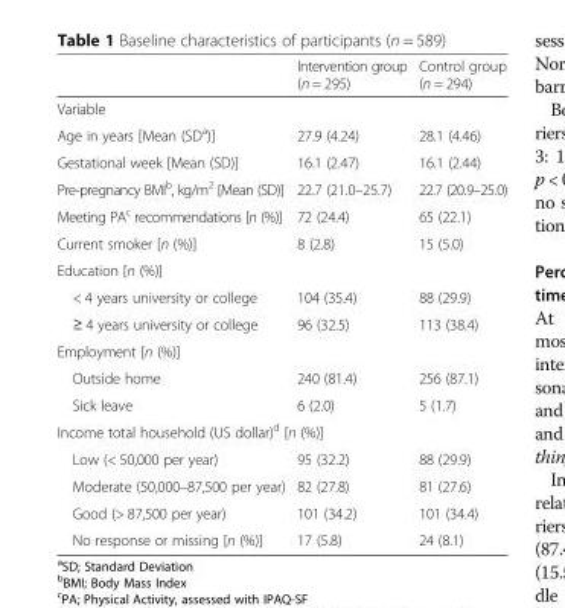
<table><thead><tr><td></td><td>Intervention group (n = 295)</td><td>Control group (n = 294)</td></tr></thead><tbody><tr><td colspan="3">Variable</td></tr><tr><td>Age in years [Mean (SD<sup>a</sup>)]</td><td>27.9 (4.24)</td><td>28.1 (4.46)</td></tr><tr><td>Gestational week [Mean (SD)]</td><td>16.1 (2.47)</td><td>16.1 (2.44)</td></tr><tr><td>Pre-pregnancy BMI<sup>b</sup>, kg/m<sup>2</sup> [Mean (SD)]</td><td>22.7 (21.0–25.7)</td><td>22.7 (20.9–25.0)</td></tr><tr><td>Meeting PA<sup>c</sup> recommendations [n (%)]</td><td>72 (24.4)</td><td>65 (22.1)</td></tr><tr><td>Current smoker [n (%)]</td><td>8 (2.8)</td><td>15 (5.0)</td></tr><tr><td colspan="3">Education [n (%)]</td></tr><tr><td>&lt; 4 years university or college</td><td>104 (35.4)</td><td>88 (29.9)</td></tr><tr><td>≥ 4 years university or college</td><td>96 (32.5)</td><td>113 (38.4)</td></tr><tr><td colspan="3">Employment [n (%)]</td></tr><tr><td>Outside home</td><td>240 (81.4)</td><td>256 (87.1)</td></tr><tr><td>Sick leave</td><td>6 (2.0)</td><td>5 (1.7)</td></tr><tr><td colspan="3">Income total household (US dollar)<sup>d</sup> [n (%)]</td></tr><tr><td>Low (&lt; 50,000 per year)</td><td>95 (32.2)</td><td>88 (29.9)</td></tr><tr><td>Moderate (50,000–87,500 per year)</td><td>82 (27.8)</td><td>81 (27.6)</td></tr><tr><td>Good (&gt; 87,500 per year)</td><td>101 (34.2)</td><td>101 (34.4)</td></tr><tr><td>No response or missing [n (%)]</td><td>17 (5.8)</td><td>24 (8.1)</td></tr></tbody></table>